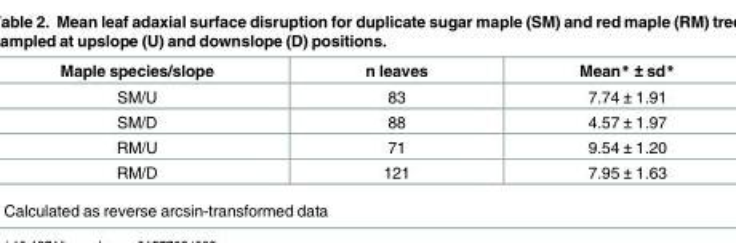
<table><thead><tr><td>Maple species/slope</td><td>n leaves</td><td>Mean* ± sd*</td></tr></thead><tbody><tr><td>SM/U</td><td>83</td><td>7.74 ± 1.91</td></tr><tr><td>SM/D</td><td>88</td><td>4.57 ± 1.97</td></tr><tr><td>RM/U</td><td>71</td><td>9.54 ± 1.20</td></tr><tr><td>RM/D</td><td>121</td><td>7.95 ± 1.63</td></tr></tbody></table>